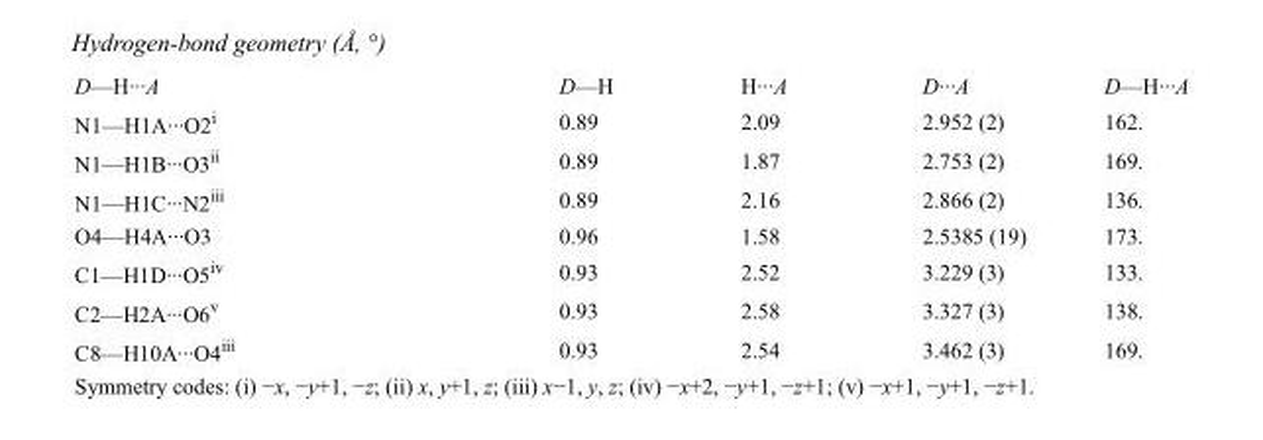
<table><tbody><tr><td>D—H···A</td><td>D—H</td><td>H···A</td><td>D···A</td><td>D—H···A</td></tr><tr><td>N1—H1A···O2<sup>i</sup></td><td>0.89</td><td>2.09</td><td>2.952 (2)</td><td>162.</td></tr><tr><td>N1—H1B···O3<sup>ii</sup></td><td>0.89</td><td>1.87</td><td>2.753 (2)</td><td>169.</td></tr><tr><td>N1—H1C···N2<sup>iii</sup></td><td>0.89</td><td>2.16</td><td>2.866 (2)</td><td>136.</td></tr><tr><td>O4—H4A···O3</td><td>0.96</td><td>1.58</td><td>2.5385 (19)</td><td>173.</td></tr><tr><td>C1—H1D···O5<sup>iv</sup></td><td>0.93</td><td>2.52</td><td>3.229 (3)</td><td>133.</td></tr><tr><td>C2—H2A···O6<sup>v</sup></td><td>0.93</td><td>2.58</td><td>3.327 (3)</td><td>138.</td></tr><tr><td>C8—H10A···O4<sup>iii</sup></td><td>0.93</td><td>2.54</td><td>3.462 (3)</td><td>169.</td></tr></tbody></table>